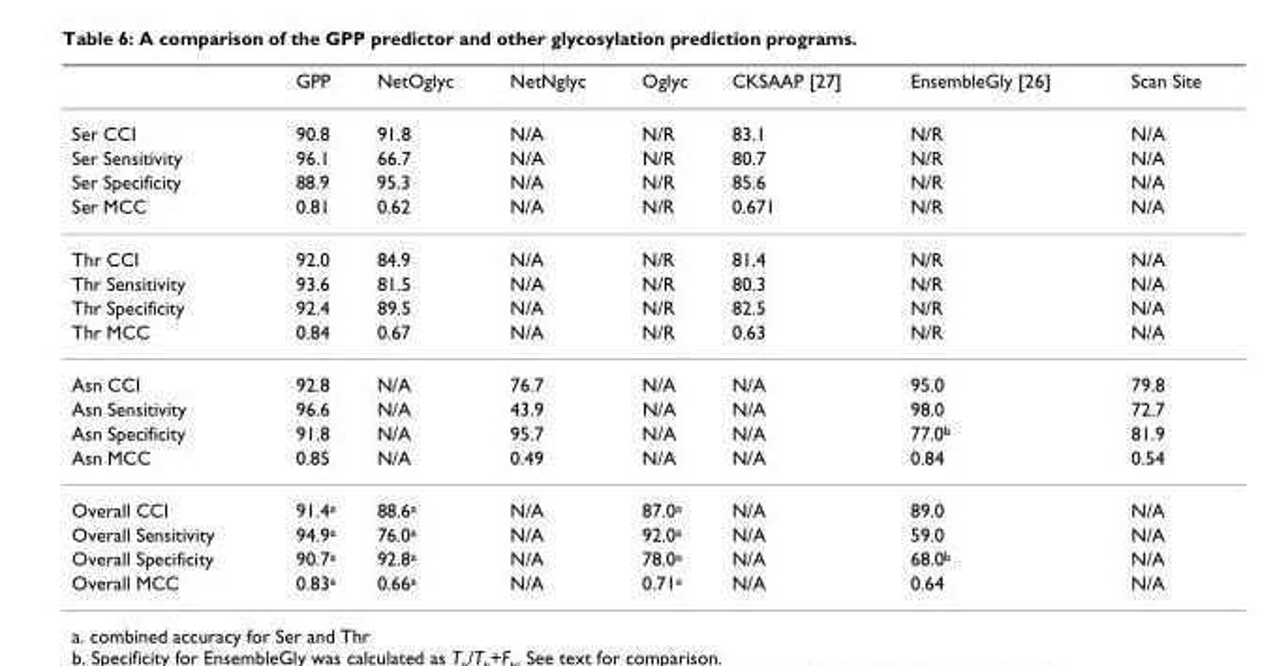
<table><thead><tr><td></td><td>GPP</td><td>NetOglyc</td><td>NetNglyc</td><td>Oglyc</td><td>CKSAAP [27]</td><td>EnsembleGly [26]</td><td>Scan Site</td></tr></thead><tbody><tr><td>Ser CCI</td><td>90.8</td><td>91.8</td><td>N/A</td><td>N/R</td><td>83.1</td><td>N/R</td><td>N/A</td></tr><tr><td>Ser Sensitivity</td><td>96.1</td><td>66.7</td><td>N/A</td><td>N/R</td><td>80.7</td><td>N/R</td><td>N/A</td></tr><tr><td>Ser Specificity</td><td>88.9</td><td>95.3</td><td>N/A</td><td>N/R</td><td>85.6</td><td>N/R</td><td>N/A</td></tr><tr><td>Ser MCC</td><td>0.81</td><td>0.62</td><td>N/A</td><td>N/R</td><td>0.671</td><td>N/R</td><td>N/A</td></tr><tr><td>Thr CCI</td><td>92.0</td><td>84.9</td><td>N/A</td><td>N/R</td><td>81.4</td><td>N/R</td><td>N/A</td></tr><tr><td>Thr Sensitivity</td><td>93.6</td><td>81.5</td><td>N/A</td><td>N/R</td><td>80.3</td><td>N/R</td><td>N/A</td></tr><tr><td>Thr Specificity</td><td>92.4</td><td>89.5</td><td>N/A</td><td>N/R</td><td>82.5</td><td>N/R</td><td>N/A</td></tr><tr><td>Thr MCC</td><td>0.84</td><td>0.67</td><td>N/A</td><td>N/R</td><td>0.63</td><td>N/R</td><td>N/A</td></tr><tr><td>Asn CCI</td><td>92.8</td><td>N/A</td><td>76.7</td><td>N/A</td><td>N/A</td><td>95.0</td><td>79.8</td></tr><tr><td>Asn Sensitivity</td><td>96.6</td><td>N/A</td><td>43.9</td><td>N/A</td><td>N/A</td><td>98.0</td><td>72.7</td></tr><tr><td>Asn Specificity</td><td>91.8</td><td>N/A</td><td>95.7</td><td>N/A</td><td>N/A</td><td>77.0<sup>b</sup></td><td>81.9</td></tr><tr><td>Asn MCC</td><td>0.85</td><td>N/A</td><td>0.49</td><td>N/A</td><td>N/A</td><td>0.84</td><td>0.54</td></tr><tr><td>Overall CCI</td><td>91.4<sup>a</sup></td><td>88.6<sup>a</sup></td><td>N/A</td><td>87.0<sup>a</sup></td><td>N/A</td><td>89.0</td><td>N/A</td></tr><tr><td>Overall Sensitivity</td><td>94.9<sup>a</sup></td><td>76.0<sup>a</sup></td><td>N/A</td><td>92.0<sup>a</sup></td><td>N/A</td><td>59.0</td><td>N/A</td></tr><tr><td>Overall Specificity</td><td>90.7<sup>a</sup></td><td>92.8<sup>a</sup></td><td>N/A</td><td>78.0<sup>a</sup></td><td>N/A</td><td>68.0<sup>b</sup></td><td>N/A</td></tr><tr><td>Overall MCC</td><td>0.83<sup>a</sup></td><td>0.66<sup>a</sup></td><td>N/A</td><td>0.71<sup>a</sup></td><td>N/A</td><td>0.64</td><td>N/A</td></tr></tbody></table>